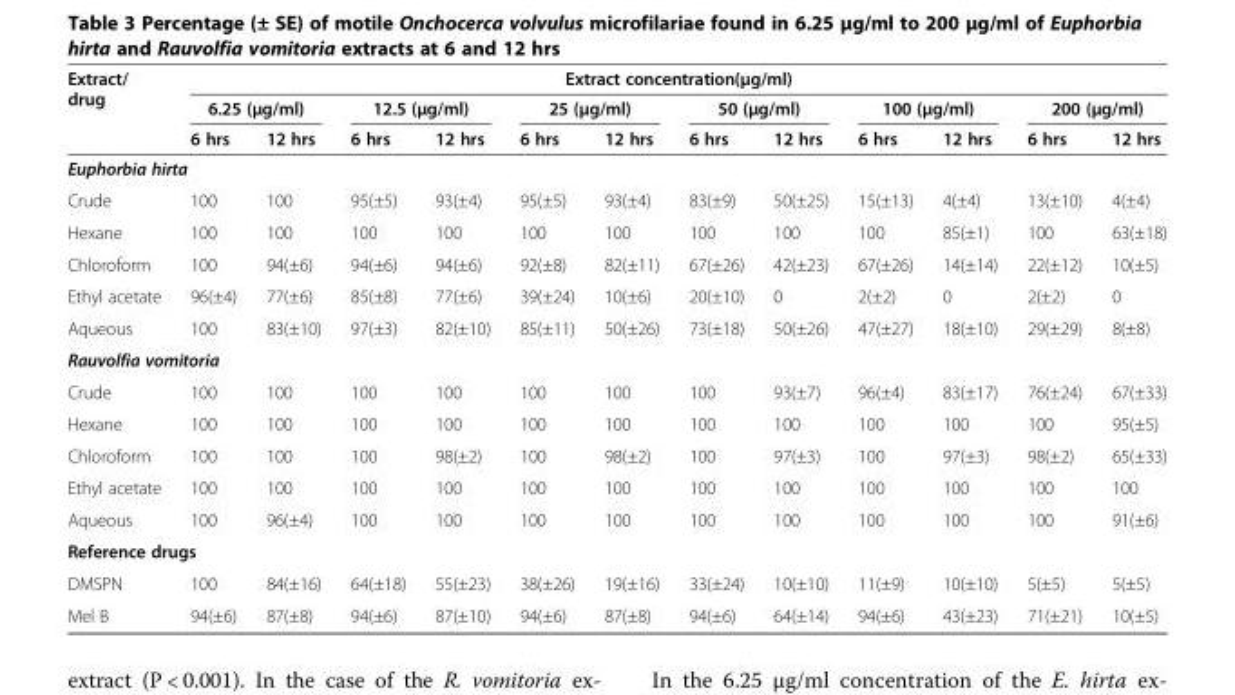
<table><thead><tr><td rowspan="3">Extract/ drug</td><td colspan="12">Extract concentration(μg/ml)</td></tr><tr><td colspan="2">6.25 (μg/ml)</td><td colspan="2">12.5 (μg/ml)</td><td colspan="2">25 (μg/ml)</td><td colspan="2">50 (μg/ml)</td><td colspan="2">100 (μg/ml)</td><td colspan="2">200 (μg/ml)</td></tr><tr><td>6 hrs</td><td>12 hrs</td><td>6 hrs</td><td>12 hrs</td><td>6 hrs</td><td>12 hrs</td><td>6 hrs</td><td>12 hrs</td><td>6 hrs</td><td>12 hrs</td><td>6 hrs</td><td>12 hrs</td></tr></thead><tbody><tr><td colspan="13">Euphorbia hirta</td></tr><tr><td>Crude</td><td>100</td><td>100</td><td>95(±5)</td><td>93(±4)</td><td>95(±5)</td><td>93(±4)</td><td>83(±9)</td><td>50(±25)</td><td>15(±13)</td><td>4(±4)</td><td>13(±10)</td><td>4(±4)</td></tr><tr><td>Hexane</td><td>100</td><td>100</td><td>100</td><td>100</td><td>100</td><td>100</td><td>100</td><td>100</td><td>100</td><td>85(±1)</td><td>100</td><td>63(±18)</td></tr><tr><td>Chloroform</td><td>100</td><td>94(±6)</td><td>94(±6)</td><td>94(±6)</td><td>92(±8)</td><td>82(±11)</td><td>67(±26)</td><td>42(±23)</td><td>67(±26)</td><td>14(±14)</td><td>22(±12)</td><td>10(±5)</td></tr><tr><td>Ethyl acetate</td><td>96(±4)</td><td>77(±6)</td><td>85(±8)</td><td>77(±6)</td><td>39(±24)</td><td>10(±6)</td><td>20(±10)</td><td>0</td><td>2(±2)</td><td>0</td><td>2(±2)</td><td>0</td></tr><tr><td>Aqueous</td><td>100</td><td>83(±10)</td><td>97(±3)</td><td>82(±10)</td><td>85(±11)</td><td>50(±26)</td><td>73(±18)</td><td>50(±26)</td><td>47(±27)</td><td>18(±10)</td><td>29(±29)</td><td>8(±8)</td></tr><tr><td colspan="13">Rauvolfia vomitoria</td></tr><tr><td>Crude</td><td>100</td><td>100</td><td>100</td><td>100</td><td>100</td><td>100</td><td>100</td><td>93(±7)</td><td>96(±4)</td><td>83(±17)</td><td>76(±24)</td><td>67(±33)</td></tr><tr><td>Hexane</td><td>100</td><td>100</td><td>100</td><td>100</td><td>100</td><td>100</td><td>100</td><td>100</td><td>100</td><td>100</td><td>100</td><td>95(±5)</td></tr><tr><td>Chloroform</td><td>100</td><td>100</td><td>100</td><td>98(±2)</td><td>100</td><td>98(±2)</td><td>100</td><td>97(±3)</td><td>100</td><td>97(±3)</td><td>98(±2)</td><td>65(±33)</td></tr><tr><td>Ethyl acetate</td><td>100</td><td>100</td><td>100</td><td>100</td><td>100</td><td>100</td><td>100</td><td>100</td><td>100</td><td>100</td><td>100</td><td>100</td></tr><tr><td>Aqueous</td><td>100</td><td>96(±4)</td><td>100</td><td>100</td><td>100</td><td>100</td><td>100</td><td>100</td><td>100</td><td>100</td><td>100</td><td>91(±6)</td></tr><tr><td colspan="13">Reference drugs</td></tr><tr><td>DMSPN</td><td>100</td><td>84(±16)</td><td>64(±18)</td><td>55(±23)</td><td>38(±26)</td><td>19(±16)</td><td>33(±24)</td><td>10(±10)</td><td>11(±9)</td><td>10(±10)</td><td>5(±5)</td><td>5(±5)</td></tr><tr><td>Mel B</td><td>94(±6)</td><td>87(±8)</td><td>94(±6)</td><td>87(±10)</td><td>94(±6)</td><td>87(±8)</td><td>94(±6)</td><td>64(±14)</td><td>94(±6)</td><td>43(±23)</td><td>71(±21)</td><td>10(±5)</td></tr></tbody></table>